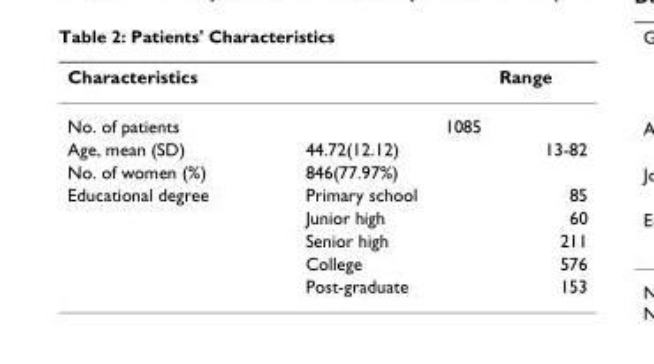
<table><thead><tr><td>Characteristics</td><td></td><td>Range</td></tr></thead><tbody><tr><td>No. of patients</td><td>1085</td><td></td></tr><tr><td>Age, mean (SD)</td><td>44.72(12.12)</td><td>13-82</td></tr><tr><td>No. of women (%)</td><td colspan="2">846(77.97%)</td></tr><tr><td rowspan="5">Educational degree</td><td>Primary school</td><td>85</td></tr><tr><td>Junior high</td><td>60</td></tr><tr><td>Senior high</td><td>211</td></tr><tr><td>College</td><td>576</td></tr><tr><td>Post-graduate</td><td>153</td></tr></tbody></table>